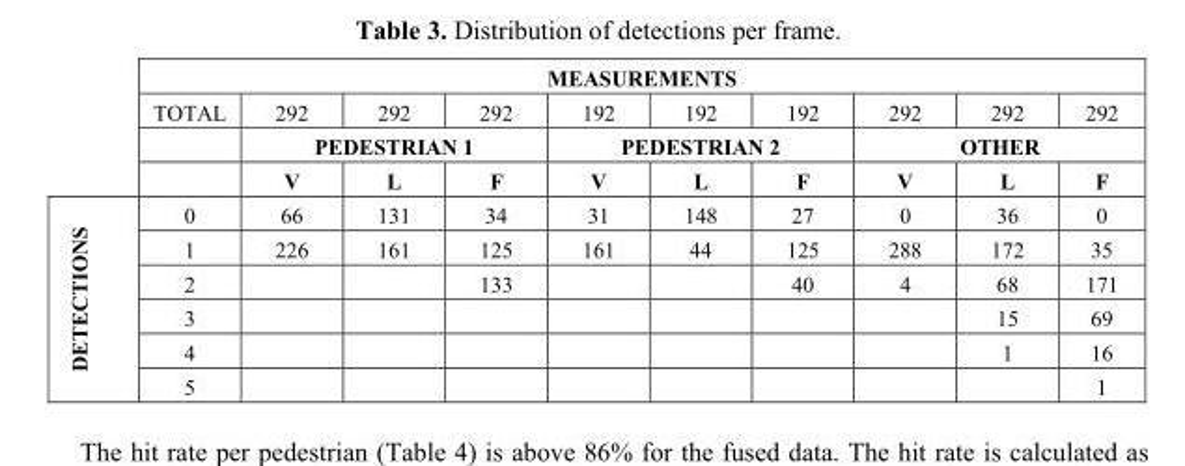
<table><thead><tr><td rowspan="4"></td><td colspan="10">MEASUREMENTS</td></tr><tr><td rowspan="3">TOTAL</td><td>292</td><td>292</td><td>292</td><td>192</td><td>192</td><td>192</td><td>292</td><td>292</td><td>292</td></tr><tr><td colspan="3">PEDESTRIAN 1</td><td colspan="3">PEDESTRIAN 2</td><td colspan="3">OTHER</td></tr><tr><td>V</td><td>L</td><td>F</td><td>V</td><td>L</td><td>F</td><td>V</td><td>L</td><td>F</td></tr></thead><tbody><tr><td rowspan="6">DETECTIONS</td><td>0</td><td>66</td><td>131</td><td>34</td><td>31</td><td>148</td><td>27</td><td>0</td><td>36</td><td>0</td></tr><tr><td>1</td><td>226</td><td>161</td><td>125</td><td>161</td><td>44</td><td>125</td><td>288</td><td>172</td><td>35</td></tr><tr><td>2</td><td></td><td></td><td>133</td><td></td><td></td><td>40</td><td>4</td><td>68</td><td>171</td></tr><tr><td>3</td><td></td><td></td><td></td><td></td><td></td><td></td><td></td><td>15</td><td>69</td></tr><tr><td>4</td><td></td><td></td><td></td><td></td><td></td><td></td><td></td><td>1</td><td>16</td></tr><tr><td>5</td><td></td><td></td><td></td><td></td><td></td><td></td><td></td><td></td><td>1</td></tr></tbody></table>